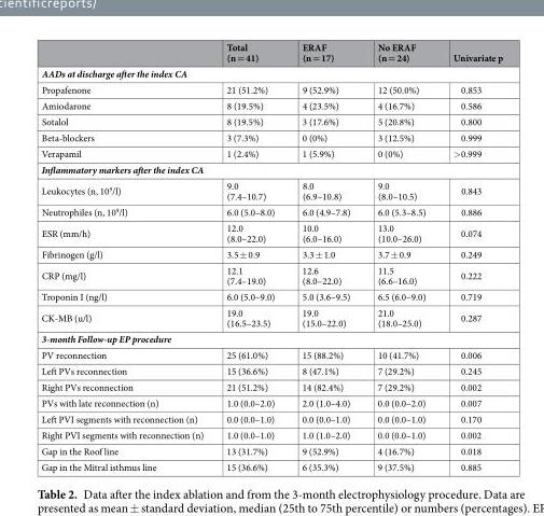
<table><thead><tr><td></td><td>Total (n = 41)</td><td>ERAF (n = 17)</td><td>No ERAF (n = 24)</td><td>Univariate p</td></tr></thead><tbody><tr><td colspan="5">AADs at discharge after the index CA</td></tr><tr><td>Propafenone</td><td>21 (51.2%)</td><td>9 (52.9%)</td><td>12 (50.0%)</td><td>0.853</td></tr><tr><td>Amiodarone</td><td>8 (19.5%)</td><td>4 (23.5%)</td><td>4 (16.7%)</td><td>0.586</td></tr><tr><td>Sotalol</td><td>8 (19.5%)</td><td>3 (17.6%)</td><td>5 (20.8%)</td><td>0.800</td></tr><tr><td>Beta-blockers</td><td>3 (7.3%)</td><td>0 (0%)</td><td>3 (12.5%)</td><td>0.999</td></tr><tr><td>Verapamil</td><td>1 (2.4%)</td><td>1 (5.9%)</td><td>0 (0%)</td><td>&gt;0.999</td></tr><tr><td colspan="5">Inflammatory markers after the index CA</td></tr><tr><td>Leukocytes (n, 10<sup>9</sup>/l)</td><td>9.0 (7.4–10.7)</td><td>8.0 (6.9–10.8)</td><td>9.0 (8.0–10.5)</td><td>0.843</td></tr><tr><td>Neutrophiles (n, 10<sup>9</sup>/l)</td><td>6.0 (5.0–8.0)</td><td>6.0 (4.9–7.8)</td><td>6.0 (5.3–8.5)</td><td>0.886</td></tr><tr><td>ESR (mm/h)</td><td>12.0 (8.0–22.0)</td><td>10.0 (6.0–16.0)</td><td>13.0 (10.0–26.0)</td><td>0.074</td></tr><tr><td>Fibrinogen (g/l)</td><td>3.5 ± 0.9</td><td>3.3 ± 1.0</td><td>3.7 ± 0.9</td><td>0.249</td></tr><tr><td>CRP (mg/l)</td><td>12.1 (7.4–19.0)</td><td>12.6 (8.0–22.0)</td><td>11.5 (6.6–16.0)</td><td>0.222</td></tr><tr><td>Troponin I (ng/l)</td><td>6.0 (5.0–9.0)</td><td>5.0 (3.6–9.5)</td><td>6.5 (6.0–9.0)</td><td>0.719</td></tr><tr><td>CK-MB (u/l)</td><td>19.0 (16.5–23.5)</td><td>19.0 (15.0–22.0)</td><td>21.0 (18.0–25.0)</td><td>0.287</td></tr><tr><td colspan="5">3-month Follow-up EP procedure</td></tr><tr><td>PV reconnection</td><td>25 (61.0%)</td><td>15 (88.2%)</td><td>10 (41.7%)</td><td>0.006</td></tr><tr><td>Left PVs reconnection</td><td>15 (36.6%)</td><td>8 (47.1%)</td><td>7 (29.2%)</td><td>0.245</td></tr><tr><td>Right PVs reconnection</td><td>21 (51.2%)</td><td>14 (82.4%)</td><td>7 (29.2%)</td><td>0.002</td></tr><tr><td>PVs with late reconnection (n)</td><td>1.0 (0.0–2.0)</td><td>2.0 (1.0–4.0)</td><td>0.0 (0.0–2.0)</td><td>0.007</td></tr><tr><td>Left PVI segments with reconnection (n)</td><td>0.0 (0.0–1.0)</td><td>0.0 (0.0–1.0)</td><td>0.0 (0.0–1.0)</td><td>0.170</td></tr><tr><td>Right PVI segments with reconnection (n)</td><td>1.0 (0.0–1.0)</td><td>1.0 (1.0–2.0)</td><td>0.0 (0.0–1.0)</td><td>0.002</td></tr><tr><td>Gap in the Roof line</td><td>13 (31.7%)</td><td>9 (52.9%)</td><td>4 (16.7%)</td><td>0.018</td></tr><tr><td>Gap in the Mitral isthmus line</td><td>15 (36.6%)</td><td>6 (35.3%)</td><td>9 (37.5%)</td><td>0.885</td></tr></tbody></table>